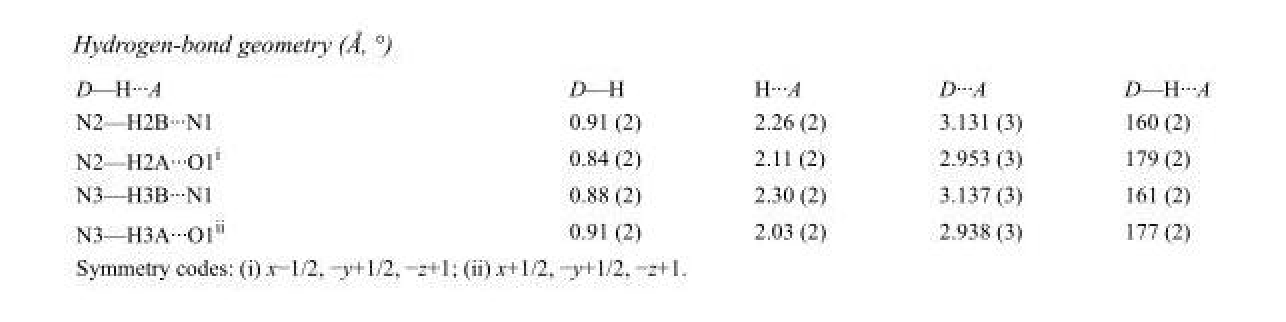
<table><tbody><tr><td>D—H···A</td><td>D—H</td><td>H···A</td><td>D···A</td><td>D—H···A</td></tr><tr><td>N2—H2B···N1</td><td>0.91 (2)</td><td>2.26 (2)</td><td>3.131 (3)</td><td>160 (2)</td></tr><tr><td>N2—H2A···O1<sup>i</sup></td><td>0.84 (2)</td><td>2.11 (2)</td><td>2.953 (3)</td><td>179 (2)</td></tr><tr><td>N3—H3B···N1</td><td>0.88 (2)</td><td>2.30 (2)</td><td>3.137 (3)</td><td>161 (2)</td></tr><tr><td>N3—H3A···O1<sup>ii</sup></td><td>0.91 (2)</td><td>2.03 (2)</td><td>2.938 (3)</td><td>177 (2)</td></tr></tbody></table>